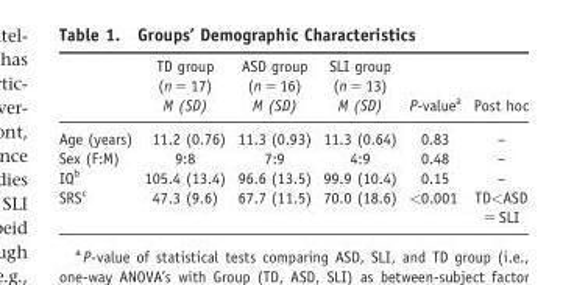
<table><thead><tr><td rowspan="3"></td><td rowspan="3">TD group (n = 17) M (SD)</td><td rowspan="3">ASD group (n = 16) M (SD)</td><td rowspan="3">SLI group (n = 13) M (SD)</td><td rowspan="3">P-value<sup>a</sup></td><td rowspan="3">Post hoc</td></tr><tr></tr><tr></tr></thead><tbody><tr><td>Age (years)</td><td>11.2 (0.76)</td><td>11.3 (0.93)</td><td>11.3 (0.64)</td><td>0.83</td><td>–</td></tr><tr><td>Sex (F:M)</td><td>9:8</td><td>7:9</td><td>4:9</td><td>0.48</td><td>–</td></tr><tr><td>IQ<sup>b</sup></td><td>105.4 (13.4)</td><td>96.6 (13.5)</td><td>99.9 (10.4)</td><td>0.15</td><td>–</td></tr><tr><td>SRS<sup>c</sup></td><td>47.3 (9.6)</td><td>67.7 (11.5)</td><td>70.0 (18.6)</td><td>&lt;0.001</td><td>TD&lt;ASD = SLI</td></tr></tbody></table>